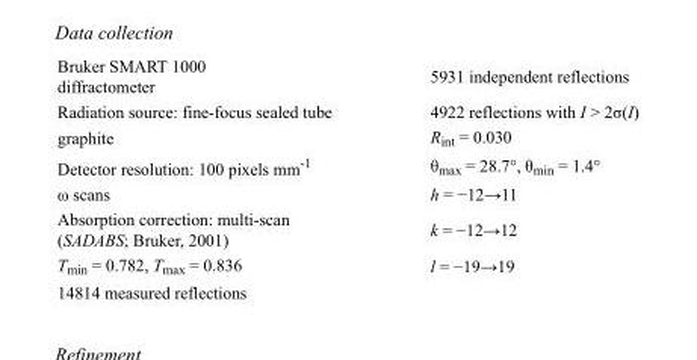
<table><tbody><tr><td>Bruker SMART 1000 diffractometer</td><td>5931 independent reflections</td></tr><tr><td>Radiation source: fine-focus sealed tube</td><td>4922 reflections with I &gt; 2σ(I)</td></tr><tr><td>graphite</td><td>R<sub>int</sub> = 0.030</td></tr><tr><td>Detector resolution: 100 pixels mm<sup>-1</sup></td><td>θ<sub>max</sub> = 28.7°, θ<sub>min</sub> = 1.4°</td></tr><tr><td>ω scans</td><td>h = −12→11</td></tr><tr><td>Absorption correction: multi-scan (SADABS; Bruker, 2001)</td><td>k = −12→12</td></tr><tr><td>T<sub>min</sub> = 0.782, T<sub>max</sub> = 0.836</td><td>l = −19→19</td></tr><tr><td>14814 measured reflections</td><td></td></tr></tbody></table>